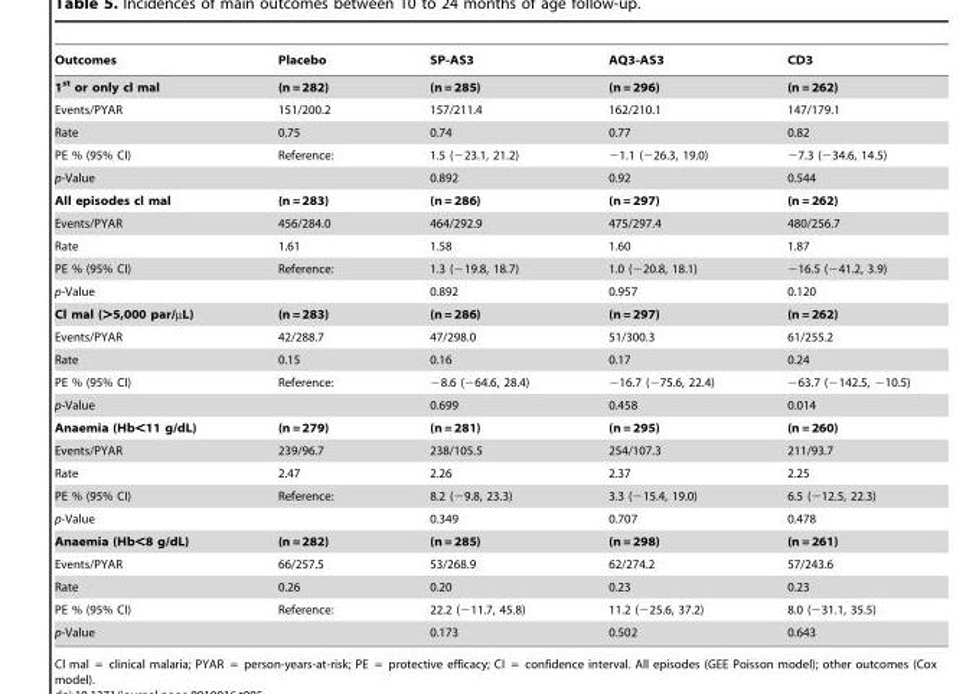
<table><thead><tr><td>Outcomes</td><td>Placebo</td><td>SP-AS3</td><td>AQ3-AS3</td><td>CD3</td></tr></thead><tbody><tr><td>1<sup>st</sup> or only cl mal</td><td>(n = 282)</td><td>(n = 285)</td><td>(n = 296)</td><td>(n = 262)</td></tr><tr><td>Events/PYAR</td><td>151/200.2</td><td>157/211.4</td><td>162/210.1</td><td>147/179.1</td></tr><tr><td>Rate</td><td>0.75</td><td>0.74</td><td>0.77</td><td>0.82</td></tr><tr><td>PE % (95% CI)</td><td>Reference:</td><td>1.5 (−23.1, 21.2)</td><td>−1.1 (−26.3, 19.0)</td><td>−7.3 (−34.6, 14.5)</td></tr><tr><td>p-Value</td><td></td><td>0.892</td><td>0.92</td><td>0.544</td></tr><tr><td>All episodes cl mal</td><td>(n = 283)</td><td>(n = 286)</td><td>(n = 297)</td><td>(n = 262)</td></tr><tr><td>Events/PYAR</td><td>456/284.0</td><td>464/292.9</td><td>475/297.4</td><td>480/256.7</td></tr><tr><td>Rate</td><td>1.61</td><td>1.58</td><td>1.60</td><td>1.87</td></tr><tr><td>PE % (95% CI)</td><td>Reference:</td><td>1.3 (−19.8, 18.7)</td><td>1.0 (−20.8, 18.1)</td><td>−16.5 (−41.2, 3.9)</td></tr><tr><td>p-Value</td><td></td><td>0.892</td><td>0.957</td><td>0.120</td></tr><tr><td>Cl mal (&gt;5,000 par/µL)</td><td>(n = 283)</td><td>(n = 286)</td><td>(n = 297)</td><td>(n = 262)</td></tr><tr><td>Events/PYAR</td><td>42/288.7</td><td>47/298.0</td><td>51/300.3</td><td>61/255.2</td></tr><tr><td>Rate</td><td>0.15</td><td>0.16</td><td>0.17</td><td>0.24</td></tr><tr><td>PE % (95% CI)</td><td>Reference:</td><td>−8.6 (−64.6, 28.4)</td><td>−16.7 (−75.6, 22.4)</td><td>−63.7 (−142.5, −10.5)</td></tr><tr><td>p-Value</td><td></td><td>0.699</td><td>0.458</td><td>0.014</td></tr><tr><td>Anaemia (Hb&lt;11 g/dL)</td><td>(n = 279)</td><td>(n = 281)</td><td>(n = 295)</td><td>(n = 260)</td></tr><tr><td>Events/PYAR</td><td>239/96.7</td><td>238/105.5</td><td>254/107.3</td><td>211/93.7</td></tr><tr><td>Rate</td><td>2.47</td><td>2.26</td><td>2.37</td><td>2.25</td></tr><tr><td>PE % (95% CI)</td><td>Reference:</td><td>8.2 (−9.8, 23.3)</td><td>3.3 (−15.4, 19.0)</td><td>6.5 (−12.5, 22.3)</td></tr><tr><td>p-Value</td><td></td><td>0.349</td><td>0.707</td><td>0.478</td></tr><tr><td>Anaemia (Hb&lt;8 g/dL)</td><td>(n = 282)</td><td>(n = 285)</td><td>(n = 298)</td><td>(n = 261)</td></tr><tr><td>Events/PYAR</td><td>66/257.5</td><td>53/268.9</td><td>62/274.2</td><td>57/243.6</td></tr><tr><td>Rate</td><td>0.26</td><td>0.20</td><td>0.23</td><td>0.23</td></tr><tr><td>PE % (95% CI)</td><td>Reference:</td><td>22.2 (−11.7, 45.8)</td><td>11.2 (−25.6, 37.2)</td><td>8.0 (−31.1, 35.5)</td></tr><tr><td>p-Value</td><td></td><td>0.173</td><td>0.502</td><td>0.643</td></tr></tbody></table>